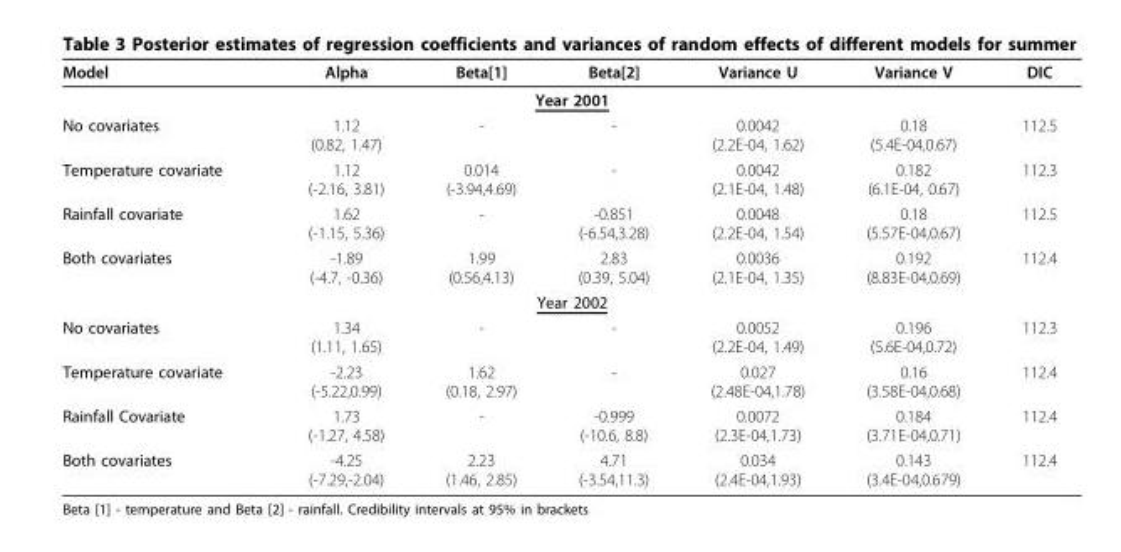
<table><thead><tr><td>Model</td><td>Alpha</td><td>Beta[1]</td><td>Beta[2]</td><td>Variance U</td><td>Variance V</td><td>DIC</td></tr></thead><tbody><tr><td colspan="7">Year 2001</td></tr><tr><td>No covariates</td><td>1.12 (0.82, 1.47)</td><td>-</td><td>-</td><td>0.0042 (2.2E-04, 1.62)</td><td>0.18 (5.4E-04,0.67)</td><td>112.5</td></tr><tr><td>Temperature covariate</td><td>1.12 (-2.16, 3.81)</td><td>0.014 (-3.94,4.69)</td><td>-</td><td>0.0042 (2.1E-04, 1.48)</td><td>0.182 (6.1E-04, 0.67)</td><td>112.3</td></tr><tr><td>Rainfall covariate</td><td>1.62 (-1.15, 5.36)</td><td>-</td><td>-0.851 (-6.54,3.28)</td><td>0.0048 (2.2E-04, 1.54)</td><td>0.18 (5.57E-04,0.67)</td><td>112.5</td></tr><tr><td>Both covariates</td><td>-1.89 (-4.7, -0.36)</td><td>1.99 (0.56,4.13)</td><td>2.83 (0.39, 5.04)</td><td>0.0036 (2.1E-04, 1.35)</td><td>0.192 (8.83E-04,0.69)</td><td>112.4</td></tr><tr><td colspan="7">Year 2002</td></tr><tr><td>No covariates</td><td>1.34 (1.11, 1.65)</td><td>-</td><td>-</td><td>0.0052 (2.2E-04, 1.49)</td><td>0.196 (5.6E-04,0.72)</td><td>112.3</td></tr><tr><td>Temperature covariate</td><td>-2.23 (-5.22,0.99)</td><td>1.62 (0.18, 2.97)</td><td>-</td><td>0.027 (2.48E-04,1.78)</td><td>0.16 (3.58E-04,0.68)</td><td>112.4</td></tr><tr><td>Rainfall Covariate</td><td>1.73 (-1.27, 4.58)</td><td>-</td><td>-0.999 (-10.6, 8.8)</td><td>0.0072 (2.3E-04,1.73)</td><td>0.184 (3.71E-04,0.71)</td><td>112.4</td></tr><tr><td>Both covariates</td><td>-4.25 (-7.29,-2.04)</td><td>2.23 (1.46, 2.85)</td><td>4.71 (-3.54,11.3)</td><td>0.034 (2.4E-04,1.93)</td><td>0.143 (3.4E-04,0.679)</td><td>112.4</td></tr></tbody></table>